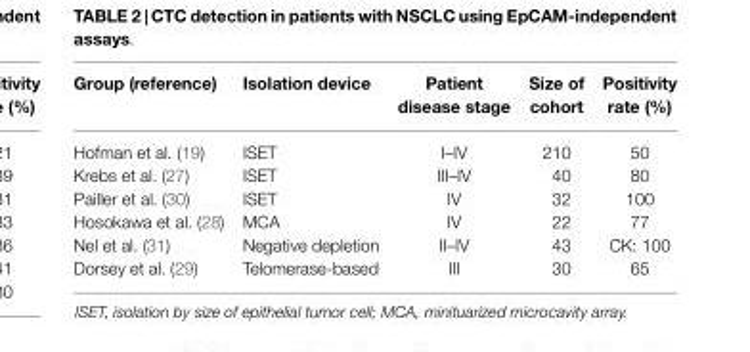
<table><thead><tr><td>Group (reference)</td><td>Isolation device</td><td>Patient disease stage</td><td>Size of cohort</td><td>Positivity rate (%)</td></tr></thead><tbody><tr><td>Hofman et al. (19)</td><td>ISET</td><td>I–IV</td><td>210</td><td>50</td></tr><tr><td>Krebs et al. (27)</td><td>ISET</td><td>III–IV</td><td>40</td><td>80</td></tr><tr><td>Pailler et al. (30)</td><td>ISET</td><td>IV</td><td>32</td><td>100</td></tr><tr><td>Hosokawa et al. (28)</td><td>MCA</td><td>IV</td><td>22</td><td>77</td></tr><tr><td>Nel et al. (31)</td><td>Negative depletion</td><td>II–IV</td><td>43</td><td>CK: 100</td></tr><tr><td>Dorsey et al. (29)</td><td>Telomerase-based</td><td>III</td><td>30</td><td>65</td></tr></tbody></table>